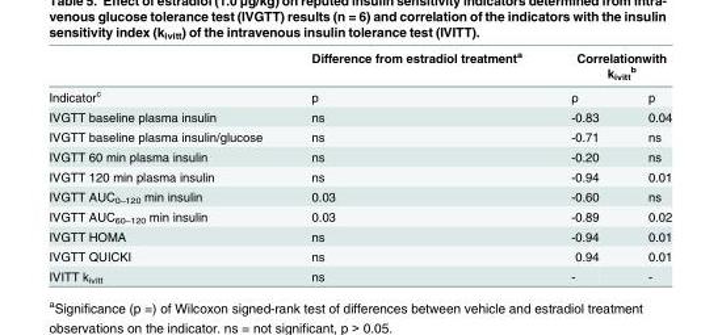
<table><thead><tr><td rowspan="2">Indicator<sup>c</sup></td><td rowspan="2">Difference from estradiol treatment<sup>a</sup> p</td><td colspan="2">Correlationwith k<sub>ivitt</sub> <sup>b</sup></td></tr><tr><td>ρ</td><td>p</td></tr></thead><tbody><tr><td>IVGTT baseline plasma insulin</td><td>ns</td><td>-0.83</td><td>0.04</td></tr><tr><td>IVGTT baseline plasma insulin/glucose</td><td>ns</td><td>-0.71</td><td>ns</td></tr><tr><td>IVGTT 60 min plasma insulin</td><td>ns</td><td>-0.20</td><td>ns</td></tr><tr><td>IVGTT 120 min plasma insulin</td><td>ns</td><td>-0.94</td><td>0.01</td></tr><tr><td>IVGTT AUC<sub>0–120</sub> min insulin</td><td>0.03</td><td>-0.60</td><td>ns</td></tr><tr><td>IVGTT AUC<sub>60–120</sub> min insulin</td><td>0.03</td><td>-0.89</td><td>0.02</td></tr><tr><td>IVGTT HOMA</td><td>ns</td><td>-0.94</td><td>0.01</td></tr><tr><td>IVGTT QUICKI</td><td>ns</td><td>0.94</td><td>0.01</td></tr><tr><td>IVITT k<sub>ivitt</sub></td><td>ns</td><td>-</td><td>-</td></tr></tbody></table>